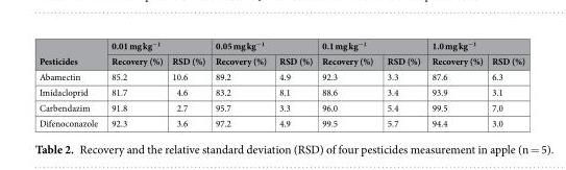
<table><thead><tr><td rowspan="2">Pesticides</td><td colspan="2">0.01 mg kg<sup>−1</sup></td><td colspan="2">0.05 mg kg<sup>−1</sup></td><td colspan="2">0.1 mg kg<sup>−1</sup></td><td colspan="2">1.0 mg kg<sup>−1</sup></td></tr><tr><td>Recovery (%)</td><td>RSD (%)</td><td>Recovery (%)</td><td>RSD (%)</td><td>Recovery (%)</td><td>RSD (%)</td><td>Recovery (%)</td><td>RSD (%)</td></tr></thead><tbody><tr><td>Abamectin</td><td>85.2</td><td>10.6</td><td>89.2</td><td>4.9</td><td>92.3</td><td>3.3</td><td>87.6</td><td>6.3</td></tr><tr><td>Imidacloprid</td><td>81.7</td><td>4.6</td><td>83.2</td><td>8.1</td><td>88.6</td><td>3.4</td><td>93.9</td><td>3.1</td></tr><tr><td>Carbendazim</td><td>91.8</td><td>2.7</td><td>95.7</td><td>3.3</td><td>96.0</td><td>5.4</td><td>99.5</td><td>7.0</td></tr><tr><td>Difenoconazole</td><td>92.3</td><td>3.6</td><td>97.2</td><td>4.9</td><td>99.5</td><td>5.7</td><td>94.4</td><td>3.0</td></tr></tbody></table>